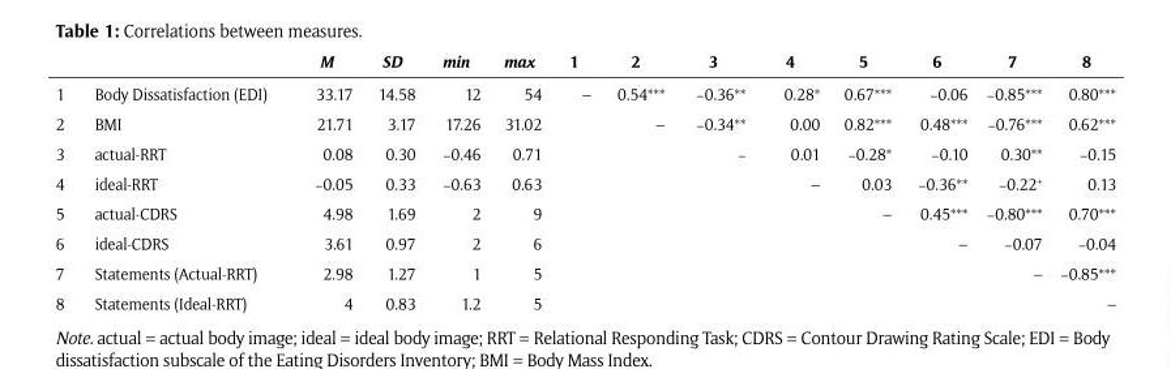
<table><thead><tr><td></td><td></td><td>M</td><td>SD</td><td>min</td><td>max</td><td>1</td><td>2</td><td>3</td><td>4</td><td>5</td><td>6</td><td>7</td><td>8</td></tr></thead><tbody><tr><td>1</td><td>Body Dissatisfaction (EDI)</td><td>33.17</td><td>14.58</td><td>12</td><td>54</td><td>–</td><td>0.54***</td><td>−0.36**</td><td>0.28*</td><td>0.67***</td><td>−0.06</td><td>−0.85***</td><td>0.80***</td></tr><tr><td>2</td><td>BMI</td><td>21.71</td><td>3.17</td><td>17.26</td><td>31.02</td><td></td><td>–</td><td>−0.34**</td><td>0.00</td><td>0.82***</td><td>0.48***</td><td>−0.76***</td><td>0.62***</td></tr><tr><td>3</td><td>actual-RRT</td><td>0.08</td><td>0.30</td><td>−0.46</td><td>0.71</td><td></td><td></td><td>−</td><td>0.01</td><td>−0.28*</td><td>−0.10</td><td>0.30**</td><td>−0.15</td></tr><tr><td>4</td><td>ideal-RRT</td><td>−0.05</td><td>0.33</td><td>−0.63</td><td>0.63</td><td></td><td></td><td></td><td>–</td><td>0.03</td><td>−0.36**</td><td>−0.22<sup>+</sup></td><td>0.13</td></tr><tr><td>5</td><td>actual-CDRS</td><td>4.98</td><td>1.69</td><td>2</td><td>9</td><td></td><td></td><td></td><td></td><td>–</td><td>0.45***</td><td>−0.80***</td><td>0.70***</td></tr><tr><td>6</td><td>ideal-CDRS</td><td>3.61</td><td>0.97</td><td>2</td><td>6</td><td></td><td></td><td></td><td></td><td></td><td>–</td><td>−0.07</td><td>−0.04</td></tr><tr><td>7</td><td>Statements (Actual-RRT)</td><td>2.98</td><td>1.27</td><td>1</td><td>5</td><td></td><td></td><td></td><td></td><td></td><td></td><td>–</td><td>−0.85***</td></tr><tr><td>8</td><td>Statements (Ideal-RRT)</td><td>4</td><td>0.83</td><td>1.2</td><td>5</td><td></td><td></td><td></td><td></td><td></td><td></td><td></td><td>–</td></tr></tbody></table>